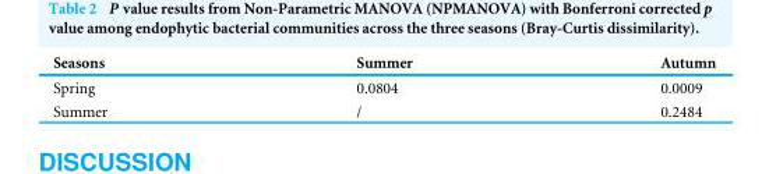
<table><thead><tr><td>Seasons</td><td>Summer</td><td>Autumn</td></tr></thead><tbody><tr><td>Spring</td><td>0.0804</td><td>0.0009</td></tr><tr><td>Summer</td><td>/</td><td>0.2484</td></tr></tbody></table>